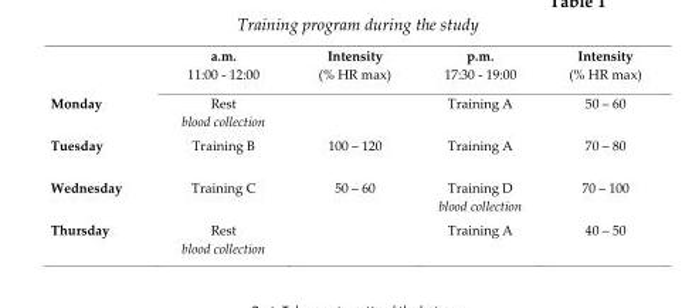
<table><thead><tr><td></td><td>a.m. 11:00 - 12:00</td><td>Intensity (% HR max)</td><td>p.m. 17:30 - 19:00</td><td>Intensity (% HR max)</td></tr></thead><tbody><tr><td>Monday</td><td>Rest blood collection</td><td></td><td>Training A</td><td>50 – 60</td></tr><tr><td>Tuesday</td><td>Training B</td><td>100 – 120</td><td>Training A</td><td>70 – 80</td></tr><tr><td>Wednesday</td><td>Training C</td><td>50 – 60</td><td>Training D blood collection</td><td>70 – 100</td></tr><tr><td>Thursday</td><td>Rest blood collection</td><td></td><td>Training A</td><td>40 – 50</td></tr></tbody></table>